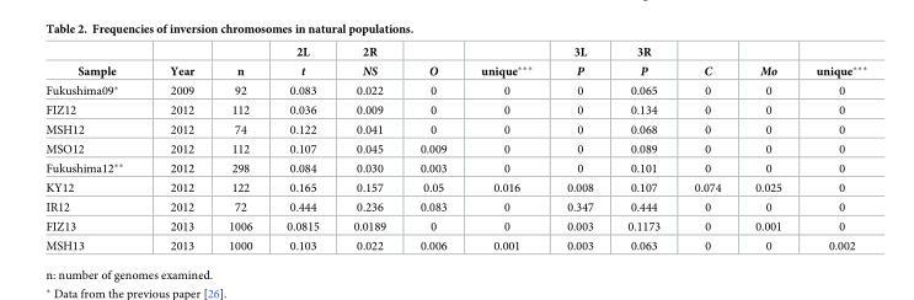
<table><thead><tr><td rowspan="2">Sample</td><td rowspan="2">Year</td><td rowspan="2">n</td><td rowspan="2">2L t</td><td rowspan="2">2R NS</td><td rowspan="2">O</td><td rowspan="2">unique***</td><td rowspan="2">3L P</td><td rowspan="2">3R P</td><td rowspan="2">C</td><td rowspan="2">Mo</td><td rowspan="2">unique***</td></tr><tr></tr></thead><tbody><tr><td>Fukushima09*</td><td>2009</td><td>92</td><td>0.083</td><td>0.022</td><td>0</td><td>0</td><td>0</td><td>0.065</td><td>0</td><td>0</td><td>0</td></tr><tr><td>FIZ12</td><td>2012</td><td>112</td><td>0.036</td><td>0.009</td><td>0</td><td>0</td><td>0</td><td>0.134</td><td>0</td><td>0</td><td>0</td></tr><tr><td>MSH12</td><td>2012</td><td>74</td><td>0.122</td><td>0.041</td><td>0</td><td>0</td><td>0</td><td>0.068</td><td>0</td><td>0</td><td>0</td></tr><tr><td>MSO12</td><td>2012</td><td>112</td><td>0.107</td><td>0.045</td><td>0.009</td><td>0</td><td>0</td><td>0.089</td><td>0</td><td>0</td><td>0</td></tr><tr><td>Fukushima12**</td><td>2012</td><td>298</td><td>0.084</td><td>0.030</td><td>0.003</td><td>0</td><td>0</td><td>0.101</td><td>0</td><td>0</td><td>0</td></tr><tr><td>KY12</td><td>2012</td><td>122</td><td>0.165</td><td>0.157</td><td>0.05</td><td>0.016</td><td>0.008</td><td>0.107</td><td>0.074</td><td>0.025</td><td>0</td></tr><tr><td>IR12</td><td>2012</td><td>72</td><td>0.444</td><td>0.236</td><td>0.083</td><td>0</td><td>0.347</td><td>0.444</td><td>0</td><td>0</td><td>0</td></tr><tr><td>FIZ13</td><td>2013</td><td>1006</td><td>0.0815</td><td>0.0189</td><td>0</td><td>0</td><td>0.003</td><td>0.1173</td><td>0</td><td>0.001</td><td>0</td></tr><tr><td>MSH13</td><td>2013</td><td>1000</td><td>0.103</td><td>0.022</td><td>0.006</td><td>0.001</td><td>0.003</td><td>0.063</td><td>0</td><td>0</td><td>0.002</td></tr></tbody></table>